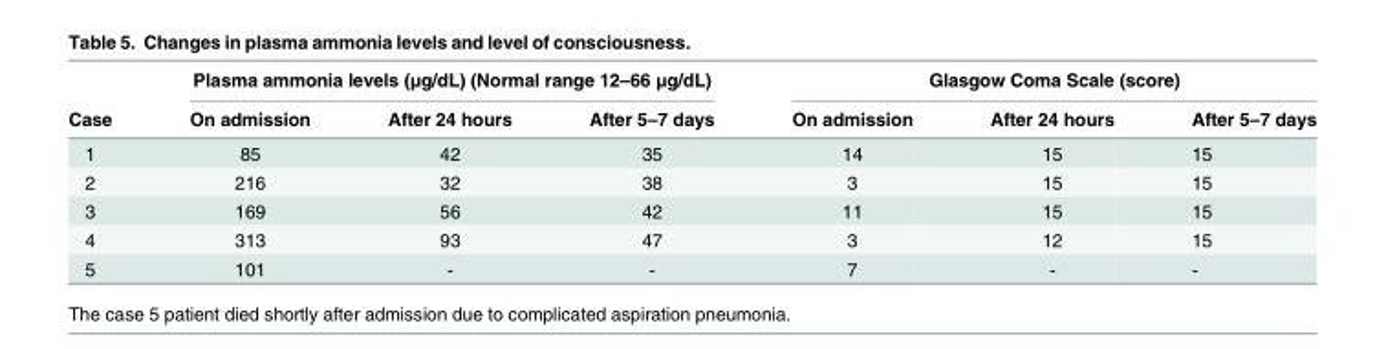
<table><thead><tr><td rowspan="2">Case</td><td colspan="3">Plasma ammonia levels (μg/dL) (Normal range 12–66 μg/dL)</td><td colspan="3">Glasgow Coma Scale (score)</td></tr><tr><td>On admission</td><td>After 24 hours</td><td>After 5–7 days</td><td>On admission</td><td>After 24 hours</td><td>After 5–7 days</td></tr></thead><tbody><tr><td>1</td><td>85</td><td>42</td><td>35</td><td>14</td><td>15</td><td>15</td></tr><tr><td>2</td><td>216</td><td>32</td><td>38</td><td>3</td><td>15</td><td>15</td></tr><tr><td>3</td><td>169</td><td>56</td><td>42</td><td>11</td><td>15</td><td>15</td></tr><tr><td>4</td><td>313</td><td>93</td><td>47</td><td>3</td><td>12</td><td>15</td></tr><tr><td>5</td><td>101</td><td>-</td><td>-</td><td>7</td><td>-</td><td>-</td></tr></tbody></table>